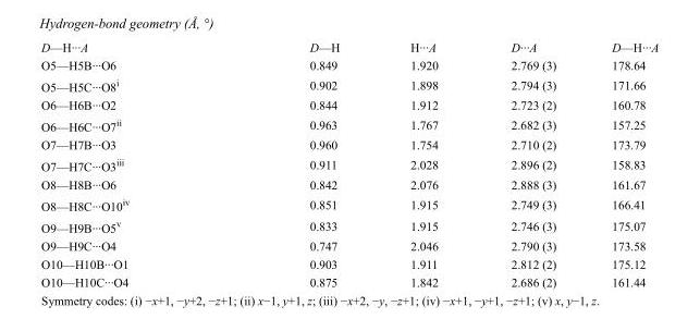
<table><tbody><tr><td>D—H···A</td><td>D—H</td><td>H···A</td><td>D···A</td><td>D—H···A</td></tr><tr><td>O5—H5B···O6</td><td>0.849</td><td>1.920</td><td>2.769 (3)</td><td>178.64</td></tr><tr><td>O5—H5C···O8<sup>i</sup></td><td>0.902</td><td>1.898</td><td>2.794 (3)</td><td>171.66</td></tr><tr><td>O6—H6B···O2</td><td>0.844</td><td>1.912</td><td>2.723 (2)</td><td>160.78</td></tr><tr><td>O6—H6C···O7<sup>ii</sup></td><td>0.963</td><td>1.767</td><td>2.682 (3)</td><td>157.25</td></tr><tr><td>O7—H7B···O3</td><td>0.960</td><td>1.754</td><td>2.710 (2)</td><td>173.79</td></tr><tr><td>O7—H7C···O3<sup>iii</sup></td><td>0.911</td><td>2.028</td><td>2.896 (2)</td><td>158.83</td></tr><tr><td>O8—H8B···O6</td><td>0.842</td><td>2.076</td><td>2.888 (3)</td><td>161.67</td></tr><tr><td>O8—H8C···O10<sup>iv</sup></td><td>0.851</td><td>1.915</td><td>2.749 (3)</td><td>166.41</td></tr><tr><td>O9—H9B···O5<sup>v</sup></td><td>0.833</td><td>1.915</td><td>2.746 (3)</td><td>175.07</td></tr><tr><td>O9—H9C···O4</td><td>0.747</td><td>2.046</td><td>2.790 (3)</td><td>173.58</td></tr><tr><td>O10—H10B···O1</td><td>0.903</td><td>1.911</td><td>2.812 (2)</td><td>175.12</td></tr><tr><td>O10—H10C···O4</td><td>0.875</td><td>1.842</td><td>2.686 (2)</td><td>161.44</td></tr></tbody></table>